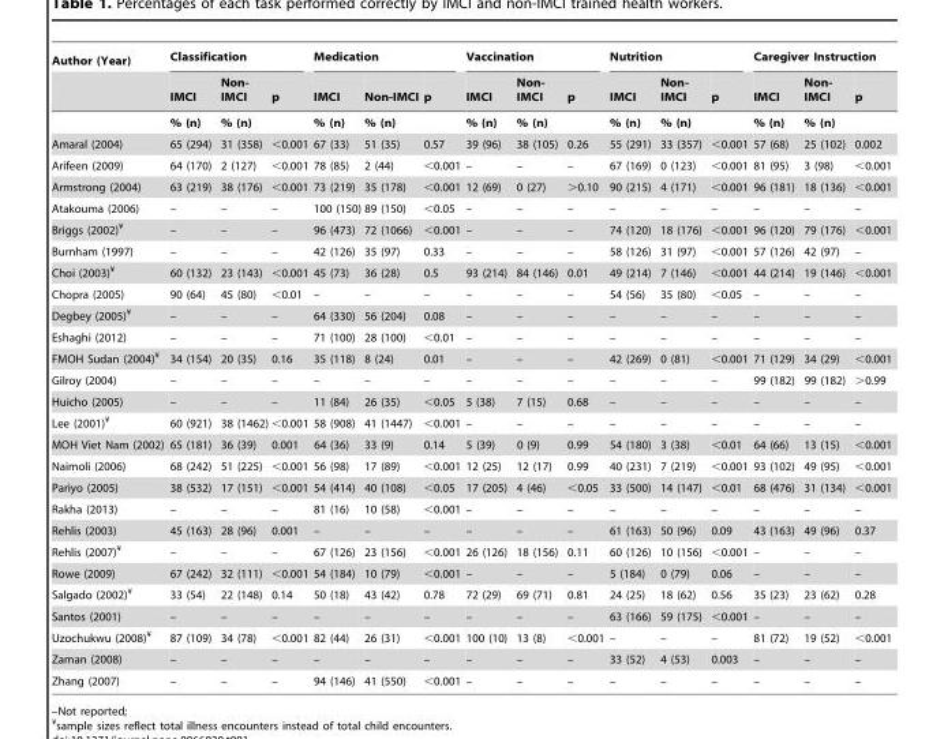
<table><thead><tr><td rowspan="2">Author (Year)</td><td colspan="3">Classification</td><td colspan="3">Medication</td><td colspan="3">Vaccination</td><td colspan="3">Nutrition</td><td colspan="3">Caregiver Instruction</td></tr><tr><td>IMCI</td><td>Non- IMCI</td><td>p</td><td>IMCI</td><td>Non-IMCI</td><td>p</td><td>IMCI</td><td>Non- IMCI</td><td>p</td><td>IMCI</td><td>Non- IMCI</td><td>p</td><td>IMCI</td><td>Non- IMCI</td><td>p</td></tr></thead><tbody><tr><td></td><td>% (n)</td><td>% (n)</td><td></td><td>% (n)</td><td>% (n)</td><td></td><td>% (n)</td><td>% (n)</td><td></td><td>% (n)</td><td>% (n)</td><td></td><td>% (n)</td><td>% (n)</td><td></td></tr><tr><td>Amaral (2004)</td><td>65 (294)</td><td>31 (358)</td><td>&lt;0.001</td><td>67 (33)</td><td>51 (35)</td><td>0.57</td><td>39 (96)</td><td>38 (105)</td><td>0.26</td><td>55 (291)</td><td>33 (357)</td><td>&lt;0.001</td><td>57 (68)</td><td>25 (102)</td><td>0.002</td></tr><tr><td>Arifeen (2009)</td><td>64 (170)</td><td>2 (127)</td><td>&lt;0.001</td><td>78 (85)</td><td>2 (44)</td><td>&lt;0.001</td><td>–</td><td>–</td><td>–</td><td>67 (169)</td><td>0 (123)</td><td>&lt;0.001</td><td>81 (95)</td><td>3 (98)</td><td>&lt;0.001</td></tr><tr><td>Armstrong (2004)</td><td>63 (219)</td><td>38 (176)</td><td>&lt;0.001</td><td>73 (219)</td><td>35 (178)</td><td>&lt;0.001</td><td>12 (69)</td><td>0 (27)</td><td>&gt;0.10</td><td>90 (215)</td><td>4 (171)</td><td>&lt;0.001</td><td>96 (181)</td><td>18 (136)</td><td>&lt;0.001</td></tr><tr><td>Atakouma (2006)</td><td>–</td><td>–</td><td>–</td><td>100 (150)</td><td>89 (150)</td><td>&lt;0.05</td><td>–</td><td>–</td><td>–</td><td>–</td><td>–</td><td>–</td><td>–</td><td>–</td><td>–</td></tr><tr><td>Briggs (2002)¥</td><td>–</td><td>–</td><td>–</td><td>96 (473)</td><td>72 (1066)</td><td>&lt;0.001</td><td>–</td><td>–</td><td>–</td><td>74 (120)</td><td>18 (176)</td><td>&lt;0.001</td><td>96 (120)</td><td>79 (176)</td><td>&lt;0.001</td></tr><tr><td>Burnham (1997)</td><td>–</td><td>–</td><td>–</td><td>42 (126)</td><td>35 (97)</td><td>0.33</td><td>–</td><td>–</td><td>–</td><td>58 (126)</td><td>31 (97)</td><td>&lt;0.001</td><td>57 (126)</td><td>42 (97)</td><td>–</td></tr><tr><td>Choi (2003)¥</td><td>60 (132)</td><td>23 (143)</td><td>&lt;0.001</td><td>45 (73)</td><td>36 (28)</td><td>0.5</td><td>93 (214)</td><td>84 (146)</td><td>0.01</td><td>49 (214)</td><td>7 (146)</td><td>&lt;0.001</td><td>44 (214)</td><td>19 (146)</td><td>&lt;0.001</td></tr><tr><td>Chopra (2005)</td><td>90 (64)</td><td>45 (80)</td><td>&lt;0.01</td><td>–</td><td>–</td><td>–</td><td>–</td><td>–</td><td>–</td><td>54 (56)</td><td>35 (80)</td><td>&lt;0.05</td><td>–</td><td>–</td><td>–</td></tr><tr><td>Degbey (2005)¥</td><td>–</td><td>–</td><td>–</td><td>64 (330)</td><td>56 (204)</td><td>0.08</td><td>–</td><td>–</td><td>–</td><td>–</td><td>–</td><td>–</td><td>–</td><td>–</td><td>–</td></tr><tr><td>Eshaghi (2012)</td><td>–</td><td>–</td><td>–</td><td>71 (100)</td><td>28 (100)</td><td>&lt;0.01</td><td>–</td><td>–</td><td>–</td><td>–</td><td>–</td><td>–</td><td>–</td><td>–</td><td>–</td></tr><tr><td>FMOH Sudan (2004)¥</td><td>34 (154)</td><td>20 (35)</td><td>0.16</td><td>35 (118)</td><td>8 (24)</td><td>0.01</td><td>–</td><td>–</td><td>–</td><td>42 (269)</td><td>0 (81)</td><td>&lt;0.001</td><td>71 (129)</td><td>34 (29)</td><td>&lt;0.001</td></tr><tr><td>Gilroy (2004)</td><td>–</td><td>–</td><td>–</td><td>–</td><td>–</td><td>–</td><td>–</td><td>–</td><td>–</td><td>–</td><td>–</td><td>–</td><td>99 (182)</td><td>99 (182)</td><td>&gt;0.99</td></tr><tr><td>Huicho (2005)</td><td>–</td><td>–</td><td>–</td><td>11 (84)</td><td>26 (35)</td><td>&lt;0.05</td><td>5 (38)</td><td>7 (15)</td><td>0.68</td><td>–</td><td>–</td><td>–</td><td>–</td><td>–</td><td>–</td></tr><tr><td>Lee (2001)¥</td><td>60 (921)</td><td>38 (1462)</td><td>&lt;0.001</td><td>58 (908)</td><td>41 (1447)</td><td>&lt;0.001</td><td>–</td><td>–</td><td>–</td><td>–</td><td>–</td><td>–</td><td>–</td><td>–</td><td>–</td></tr><tr><td>MOH Viet Nam (2002)</td><td>65 (181)</td><td>36 (39)</td><td>0.001</td><td>64 (36)</td><td>33 (9)</td><td>0.14</td><td>5 (39)</td><td>0 (9)</td><td>0.99</td><td>54 (180)</td><td>3 (38)</td><td>&lt;0.01</td><td>64 (66)</td><td>13 (15)</td><td>&lt;0.001</td></tr><tr><td>Naimoli (2006)</td><td>68 (242)</td><td>51 (225)</td><td>&lt;0.001</td><td>56 (98)</td><td>17 (89)</td><td>&lt;0.001</td><td>12 (25)</td><td>12 (17)</td><td>0.99</td><td>40 (231)</td><td>7 (219)</td><td>&lt;0.001</td><td>93 (102)</td><td>49 (95)</td><td>&lt;0.001</td></tr><tr><td>Pariyo (2005)</td><td>38 (532)</td><td>17 (151)</td><td>&lt;0.001</td><td>54 (414)</td><td>40 (108)</td><td>&lt;0.05</td><td>17 (205)</td><td>4 (46)</td><td>&lt;0.05</td><td>33 (500)</td><td>14 (147)</td><td>&lt;0.01</td><td>68 (476)</td><td>31 (134)</td><td>&lt;0.001</td></tr><tr><td>Rakha (2013)</td><td>–</td><td>–</td><td>–</td><td>81 (16)</td><td>10 (58)</td><td>&lt;0.001</td><td>–</td><td>–</td><td>–</td><td>–</td><td>–</td><td>–</td><td>–</td><td>–</td><td>–</td></tr><tr><td>Rehlis (2003)</td><td>45 (163)</td><td>28 (96)</td><td>0.001</td><td>–</td><td>–</td><td>–</td><td>–</td><td>–</td><td>–</td><td>61 (163)</td><td>50 (96)</td><td>0.09</td><td>43 (163)</td><td>49 (96)</td><td>0.37</td></tr><tr><td>Rehlis (2007)¥</td><td>–</td><td>–</td><td>–</td><td>67 (126)</td><td>23 (156)</td><td>&lt;0.001</td><td>26 (126)</td><td>18 (156)</td><td>0.11</td><td>60 (126)</td><td>10 (156)</td><td>&lt;0.001</td><td>–</td><td>–</td><td>–</td></tr><tr><td>Rowe (2009)</td><td>67 (242)</td><td>32 (111)</td><td>&lt;0.001</td><td>54 (184)</td><td>10 (79)</td><td>&lt;0.001</td><td>–</td><td>–</td><td>–</td><td>5 (184)</td><td>0 (79)</td><td>0.06</td><td>–</td><td>–</td><td>–</td></tr><tr><td>Salgado (2002)¥</td><td>33 (54)</td><td>22 (148)</td><td>0.14</td><td>50 (18)</td><td>43 (42)</td><td>0.78</td><td>72 (29)</td><td>69 (71)</td><td>0.81</td><td>24 (25)</td><td>18 (62)</td><td>0.56</td><td>35 (23)</td><td>23 (62)</td><td>0.28</td></tr><tr><td>Santos (2001)</td><td>–</td><td>–</td><td>–</td><td>–</td><td>–</td><td>–</td><td>–</td><td>–</td><td>–</td><td>63 (166)</td><td>59 (175)</td><td>&lt;0.001</td><td>–</td><td>–</td><td>–</td></tr><tr><td>Uzochukwu (2008)¥</td><td>87 (109)</td><td>34 (78)</td><td>&lt;0.001</td><td>82 (44)</td><td>26 (31)</td><td>&lt;0.001</td><td>100 (10)</td><td>13 (8)</td><td>&lt;0.001</td><td>–</td><td>–</td><td>–</td><td>81 (72)</td><td>19 (52)</td><td>&lt;0.001</td></tr><tr><td>Zaman (2008)</td><td>–</td><td>–</td><td>–</td><td>–</td><td>–</td><td>–</td><td>–</td><td>–</td><td>–</td><td>33 (52)</td><td>4 (53)</td><td>0.003</td><td>–</td><td>–</td><td>–</td></tr><tr><td>Zhang (2007)</td><td>–</td><td>–</td><td>–</td><td>94 (146)</td><td>41 (550)</td><td>&lt;0.001</td><td>–</td><td>–</td><td>–</td><td>–</td><td>–</td><td>–</td><td>–</td><td>–</td><td>–</td></tr></tbody></table>